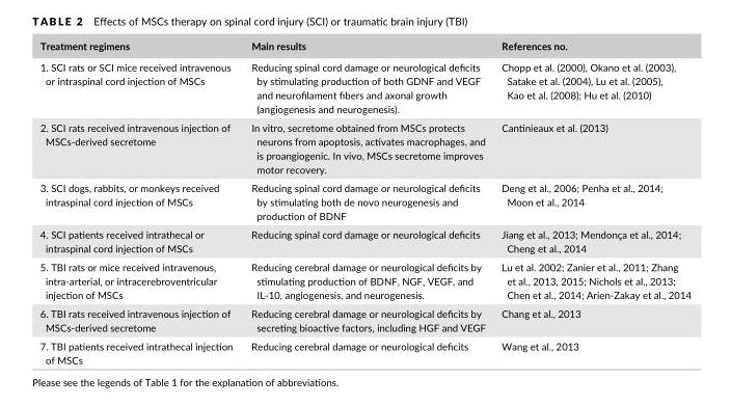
<table><thead><tr><td>Treatment regimens</td><td>Main results</td><td>References no.</td></tr></thead><tbody><tr><td>1. SCI rats or SCI mice received intravenous or intraspinal cord injection of MSCs</td><td>Reducing spinal cord damage or neurological deficits by stimulating production of both GDNF and VEGF and neurofilament fibers and axonal growth (angiogenesis and neurogenesis).</td><td>Chopp et al. (2000), Okano et al. (2003), Satake et al. (2004), Lu et al. (2005), Kao et al. (2008); Hu et al. (2010)</td></tr><tr><td>2. SCI rats received intravenous injection of MSCs- derived secretome</td><td>In vitro, secretome obtained from MSCs protects neurons from apoptosis, activates macrophages, and is proangiogenic. In vivo, MSCs secretome improves motor recovery.</td><td>Cantinieaux et al. (2013)</td></tr><tr><td>3. SCI dogs, rabbits, or monkeys received intraspinal cord injection of MSCs</td><td>Reducing spinal cord damage or neurological deficits by stimulating both de novo neurogenesis and production of BDNF</td><td>Deng et al., 2006; Penha et al., 2014; Moon et al., 2014</td></tr><tr><td>4. SCI patients received intrathecal or intraspinal cord injection of MSCs</td><td>Reducing spinal cord damage or neurological deficits</td><td>Jiang et al., 2013; Mendonça et al., 2014; Cheng et al., 2014</td></tr><tr><td>5. TBI rats or mice received intravenous, intra- arterial, or intracerebroventricular injection of MSCs</td><td>Reducing cerebral damage or neurological deficits by stimulating production of BDNF, NGF, VEGF, and IL- 10, angiogenesis, and neurogenesis.</td><td>Lu et al. 2002; Zanier et al., 2011; Zhang et al., 2013, 2015; Nichols et al., 2013; Chen et al., 2014; Arien- Zakay et al., 2014</td></tr><tr><td>6. TBI rats received intravenous injection of MSCs- derived secretome</td><td>Reducing cerebral damage or neurological deficits by secreting bioactive factors, including HGF and VEGF</td><td>Chang et al., 2013</td></tr><tr><td>7. TBI patients received intrathecal injection of MSCs</td><td>Reducing cerebral damage or neurological deficits</td><td>Wang et al., 2013</td></tr></tbody></table>